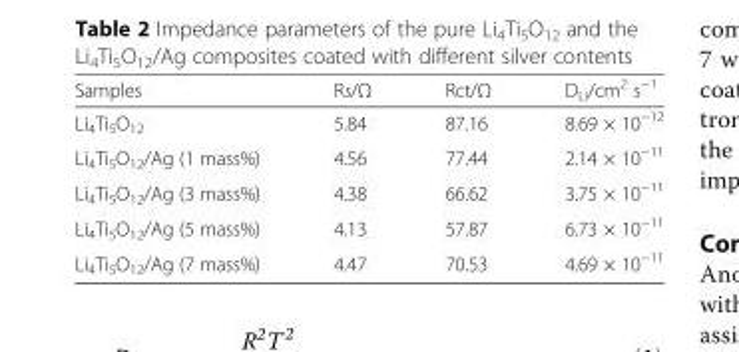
<table><thead><tr><td>Samples</td><td>Rs/Ω</td><td>Rct/Ω</td><td>D<sub>Li</sub>/cm<sup>2</sup> s<sup>−1</sup></td></tr></thead><tbody><tr><td>Li<sub>4</sub>Ti<sub>5</sub>O<sub>12</sub></td><td>5.84</td><td>87.16</td><td>8.69 × 10<sup>−12</sup></td></tr><tr><td>Li<sub>4</sub>Ti<sub>5</sub>O<sub>12</sub>/Ag (1 mass%)</td><td>4.56</td><td>77.44</td><td>2.14 × 10<sup>−11</sup></td></tr><tr><td>Li<sub>4</sub>Ti<sub>5</sub>O<sub>12</sub>/Ag (3 mass%)</td><td>4.38</td><td>66.62</td><td>3.75 × 10<sup>−11</sup></td></tr><tr><td>Li<sub>4</sub>Ti<sub>5</sub>O<sub>12</sub>/Ag (5 mass%)</td><td>4.13</td><td>57.87</td><td>6.73 × 10<sup>−11</sup></td></tr><tr><td>Li<sub>4</sub>Ti<sub>5</sub>O<sub>12</sub>/Ag (7 mass%)</td><td>4.47</td><td>70.53</td><td>4.69 × 10<sup>−11</sup></td></tr></tbody></table>